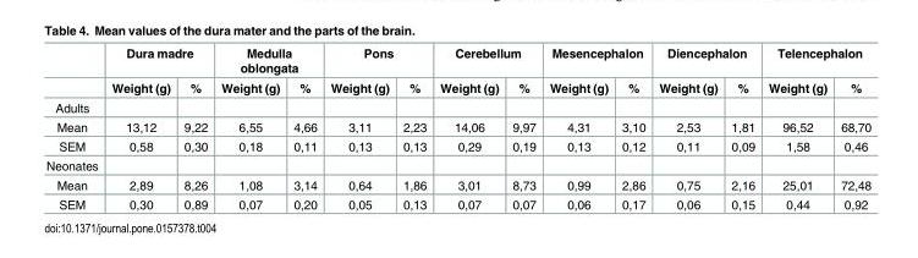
<table><thead><tr><td rowspan="2"></td><td colspan="2">Dura madre</td><td colspan="2">Medulla oblongata</td><td colspan="2">Pons</td><td colspan="2">Cerebellum</td><td colspan="2">Mesencephalon</td><td colspan="2">Diencephalon</td><td colspan="2">Telencephalon</td></tr><tr><td>Weight (g)</td><td>%</td><td>Weight (g)</td><td>%</td><td>Weight (g)</td><td>%</td><td>Weight (g)</td><td>%</td><td>Weight (g)</td><td>%</td><td>Weight (g)</td><td>%</td><td>Weight (g)</td><td>%</td></tr></thead><tbody><tr><td colspan="15">Adults</td></tr><tr><td>Mean</td><td>13,12</td><td>9,22</td><td>6,55</td><td>4,66</td><td>3,11</td><td>2,23</td><td>14,06</td><td>9,97</td><td>4,31</td><td>3,10</td><td>2,53</td><td>1,81</td><td>96,52</td><td>68,70</td></tr><tr><td>SEM</td><td>0,58</td><td>0,30</td><td>0,18</td><td>0,11</td><td>0,13</td><td>0,13</td><td>0,29</td><td>0,19</td><td>0,13</td><td>0,12</td><td>0,11</td><td>0,09</td><td>1,58</td><td>0,46</td></tr><tr><td colspan="15">Neonates</td></tr><tr><td>Mean</td><td>2,89</td><td>8,26</td><td>1,08</td><td>3,14</td><td>0,64</td><td>1,86</td><td>3,01</td><td>8,73</td><td>0,99</td><td>2,86</td><td>0,75</td><td>2,16</td><td>25,01</td><td>72,48</td></tr><tr><td>SEM</td><td>0,30</td><td>0,89</td><td>0,07</td><td>0,20</td><td>0,05</td><td>0,13</td><td>0,07</td><td>0,07</td><td>0,06</td><td>0,17</td><td>0,06</td><td>0,15</td><td>0,44</td><td>0,92</td></tr></tbody></table>